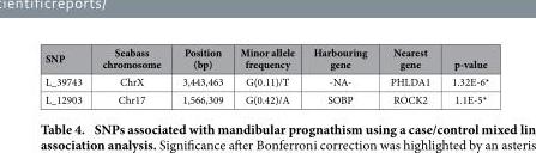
<table><thead><tr><td>SNP</td><td>Seabass chromosome</td><td>Position (bp)</td><td>Minor allele frequency</td><td>Harbouring gene</td><td>Nearest gene</td><td>p-value</td></tr></thead><tbody><tr><td>L_39743</td><td>ChrX</td><td>3,443,463</td><td>G(0.11)/T</td><td>-NA-</td><td>PHLDA1</td><td>1.32E-6*</td></tr><tr><td>L_12903</td><td>Chr17</td><td>1,566,309</td><td>G(0.42)/A</td><td>SOBP</td><td>ROCK2</td><td>1.1E-5*</td></tr></tbody></table>